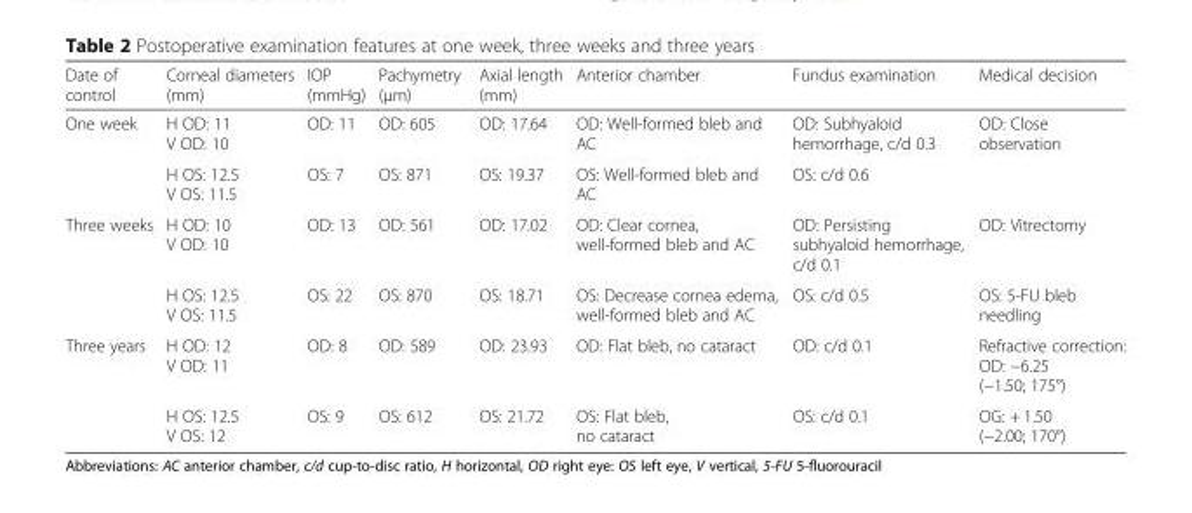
<table><thead><tr><td>Date of control</td><td>Corneal diameters (mm)</td><td>IOP (mmHg)</td><td>Pachymetry (μm)</td><td>Axial length (mm)</td><td>Anterior chamber</td><td>Fundus examination</td><td>Medical decision</td></tr></thead><tbody><tr><td rowspan="2">One week</td><td>H OD: 11 V OD: 10</td><td>OD: 11</td><td>OD: 605</td><td>OD: 17.64</td><td>OD: Well-formed bleb and AC</td><td>OD: Subhyaloid hemorrhage, c/d 0.3</td><td rowspan="2">OD: Close observation</td></tr><tr><td>H OS: 12.5 V OS: 11.5</td><td>OS: 7</td><td>OS: 871</td><td>OS: 19.37</td><td>OS: Well-formed bleb and AC</td><td>OS: c/d 0.6</td></tr><tr><td rowspan="2">Three weeks</td><td>H OD: 10 V OD: 10</td><td>OD: 13</td><td>OD: 561</td><td>OD: 17.02</td><td>OD: Clear cornea, well-formed bleb and AC</td><td>OD: Persisting subhyaloid hemorrhage, c/d 0.1</td><td>OD: Vitrectomy</td></tr><tr><td>H OS: 12.5 V OS: 11.5</td><td>OS: 22</td><td>OS: 870</td><td>OS: 18.71</td><td>OS: Decrease cornea edema, well-formed bleb and AC</td><td>OS: c/d 0.5</td><td>OS: 5-FU bleb needling</td></tr><tr><td rowspan="2">Three years</td><td>H OD: 12 V OD: 11</td><td>OD: 8</td><td>OD: 589</td><td>OD: 23.93</td><td>OD: Flat bleb, no cataract</td><td>OD: c/d 0.1</td><td>Refractive correction: OD: −6.25 (−1.50; 175°)</td></tr><tr><td>H OS: 12.5 V OS: 12</td><td>OS: 9</td><td>OS: 612</td><td>OS: 21.72</td><td>OS: Flat bleb, no cataract</td><td>OS: c/d 0.1</td><td>OG: + 1.50 (−2.00; 170°)</td></tr></tbody></table>